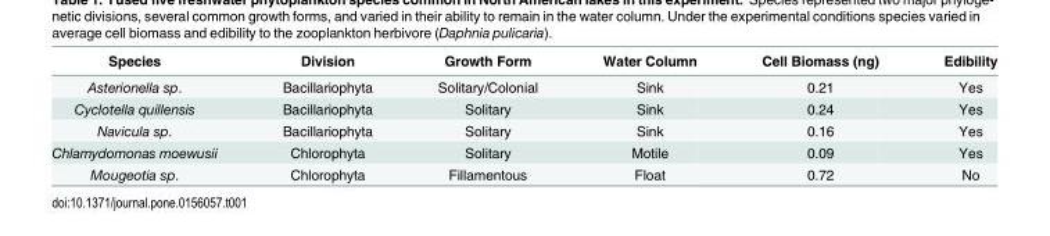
<table><thead><tr><td>Species</td><td>Division</td><td>Growth Form</td><td>Water Column</td><td>Cell Biomass (ng)</td><td>Edibility</td></tr></thead><tbody><tr><td>Asterionella sp.</td><td>Bacillariophyta</td><td>Solitary/Colonial</td><td>Sink</td><td>0.21</td><td>Yes</td></tr><tr><td>Cyclotella quillensis</td><td>Bacillariophyta</td><td>Solitary</td><td>Sink</td><td>0.24</td><td>Yes</td></tr><tr><td>Navicula sp.</td><td>Bacillariophyta</td><td>Solitary</td><td>Sink</td><td>0.16</td><td>Yes</td></tr><tr><td>Chlamydomonas moewusii</td><td>Chlorophyta</td><td>Solitary</td><td>Motile</td><td>0.09</td><td>Yes</td></tr><tr><td>Mougeotia sp.</td><td>Chlorophyta</td><td>Fillamentous</td><td>Float</td><td>0.72</td><td>No</td></tr></tbody></table>